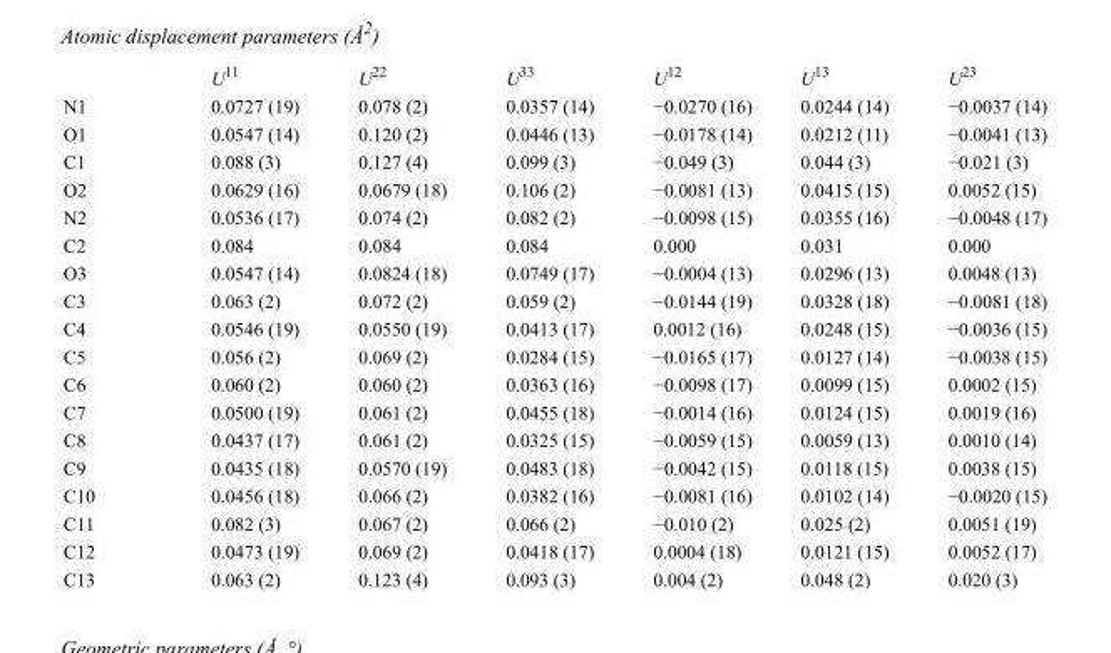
<table><thead><tr><td></td><td>U<sup>11</sup></td><td>U<sup>22</sup></td><td>U<sup>33</sup></td><td>U<sup>12</sup></td><td>U<sup>13</sup></td><td>U<sup>23</sup></td></tr></thead><tbody><tr><td>N1</td><td>0.0727 (19)</td><td>0.078 (2)</td><td>0.0357 (14)</td><td>−0.0270 (16)</td><td>0.0244 (14)</td><td>−0.0037 (14)</td></tr><tr><td>O1</td><td>0.0547 (14)</td><td>0.120 (2)</td><td>0.0446 (13)</td><td>−0.0178 (14)</td><td>0.0212 (11)</td><td>−0.0041 (13)</td></tr><tr><td>C1</td><td>0.088 (3)</td><td>0.127 (4)</td><td>0.099 (3)</td><td>−0.049 (3)</td><td>0.044 (3)</td><td>−0.021 (3)</td></tr><tr><td>O2</td><td>0.0629 (16)</td><td>0.0679 (18)</td><td>0.106 (2)</td><td>−0.0081 (13)</td><td>0.0415 (15)</td><td>0.0052 (15)</td></tr><tr><td>N2</td><td>0.0536 (17)</td><td>0.074 (2)</td><td>0.082 (2)</td><td>−0.0098 (15)</td><td>0.0355 (16)</td><td>−0.0048 (17)</td></tr><tr><td>C2</td><td>0.084</td><td>0.084</td><td>0.084</td><td>0.000</td><td>0.031</td><td>0.000</td></tr><tr><td>O3</td><td>0.0547 (14)</td><td>0.0824 (18)</td><td>0.0749 (17)</td><td>−0.0004 (13)</td><td>0.0296 (13)</td><td>0.0048 (13)</td></tr><tr><td>C3</td><td>0.063 (2)</td><td>0.072 (2)</td><td>0.059 (2)</td><td>−0.0144 (19)</td><td>0.0328 (18)</td><td>−0.0081 (18)</td></tr><tr><td>C4</td><td>0.0546 (19)</td><td>0.0550 (19)</td><td>0.0413 (17)</td><td>0.0012 (16)</td><td>0.0248 (15)</td><td>−0.0036 (15)</td></tr><tr><td>C5</td><td>0.056 (2)</td><td>0.069 (2)</td><td>0.0284 (15)</td><td>−0.0165 (17)</td><td>0.0127 (14)</td><td>−0.0038 (15)</td></tr><tr><td>C6</td><td>0.060 (2)</td><td>0.060 (2)</td><td>0.0363 (16)</td><td>−0.0098 (17)</td><td>0.0099 (15)</td><td>0.0002 (15)</td></tr><tr><td>C7</td><td>0.0500 (19)</td><td>0.061 (2)</td><td>0.0455 (18)</td><td>−0.0014 (16)</td><td>0.0124 (15)</td><td>0.0019 (16)</td></tr><tr><td>C8</td><td>0.0437 (17)</td><td>0.061 (2)</td><td>0.0325 (15)</td><td>−0.0059 (15)</td><td>0.0059 (13)</td><td>0.0010 (14)</td></tr><tr><td>C9</td><td>0.0435 (18)</td><td>0.0570 (19)</td><td>0.0483 (18)</td><td>−0.0042 (15)</td><td>0.0118 (15)</td><td>0.0038 (15)</td></tr><tr><td>C10</td><td>0.0456 (18)</td><td>0.066 (2)</td><td>0.0382 (16)</td><td>−0.0081 (16)</td><td>0.0102 (14)</td><td>−0.0020 (15)</td></tr><tr><td>C11</td><td>0.082 (3)</td><td>0.067 (2)</td><td>0.066 (2)</td><td>−0.010 (2)</td><td>0.025 (2)</td><td>0.0051 (19)</td></tr><tr><td>C12</td><td>0.0473 (19)</td><td>0.069 (2)</td><td>0.0418 (17)</td><td>0.0004 (18)</td><td>0.0121 (15)</td><td>0.0052 (17)</td></tr><tr><td>C13</td><td>0.063 (2)</td><td>0.123 (4)</td><td>0.093 (3)</td><td>0.004 (2)</td><td>0.048 (2)</td><td>0.020 (3)</td></tr></tbody></table>